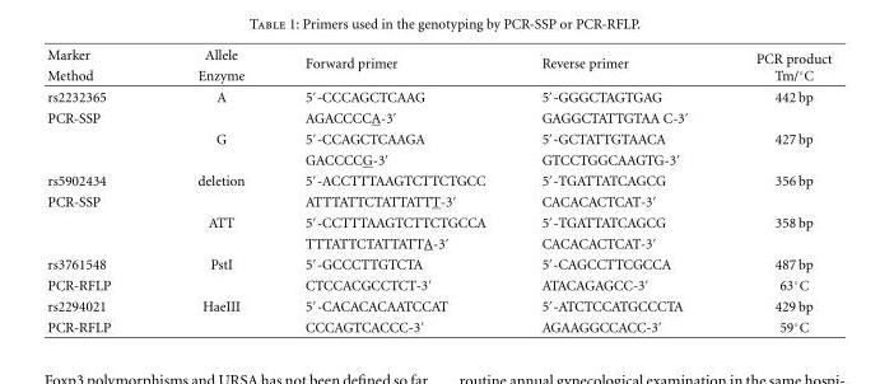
<table><thead><tr><td rowspan="2">Marker Method</td><td rowspan="2">Allele Enzyme</td><td rowspan="2">Forward primer</td><td rowspan="2">Reverse primer</td><td rowspan="2">PCR product Tm/◦C</td></tr><tr></tr></thead><tbody><tr><td>rs2232365</td><td>A</td><td>5′-CCCAGCTCAAG</td><td>5′-GGGCTAGTGAG</td><td>442 bp</td></tr><tr><td rowspan="3">PCR-SSP</td><td></td><td>AGACCCCA-3′</td><td>GAGGCTATTGTAA C-3′</td><td></td></tr><tr><td>G</td><td>5′-CCAGCTCAAGA</td><td>5′-GCTATTGTAACA</td><td>427 bp</td></tr><tr><td></td><td>GACCCCG-3′</td><td>GTCCTGGCAAGTG-3′</td><td></td></tr><tr><td>rs5902434</td><td>deletion</td><td>5′-ACCTTTAAGTCTTCTGCC</td><td>5′-TGATTATCAGCG</td><td>356 bp</td></tr><tr><td rowspan="3">PCR-SSP</td><td></td><td>ATTTATTCTATTATTT-3′</td><td>CACACACTCAT-3′</td><td></td></tr><tr><td>ATT</td><td>5′-CCTTTAAGTCTTCTGCCA</td><td>5′-TGATTATCAGCG</td><td>358 bp</td></tr><tr><td></td><td>TTTATTCTATTATTA-3′</td><td>CACACACTCAT-3′</td><td></td></tr><tr><td>rs3761548</td><td>PstI</td><td>5′-GCCCTTGTCTA</td><td>5′-CAGCCTTCGCCA</td><td>487 bp</td></tr><tr><td>PCR-RFLP</td><td></td><td>CTCCACGCCTCT-3′</td><td>ATACAGAGCC-3′</td><td>63◦C</td></tr><tr><td>rs2294021</td><td>HaeIII</td><td>5′-CACACACAATCCAT</td><td>5′-ATCTCCATGCCCTA</td><td>429 bp</td></tr><tr><td>PCR-RFLP</td><td></td><td>CCCAGTCACCC-3′</td><td>AGAAGGCCACC-3′</td><td>59◦C</td></tr></tbody></table>